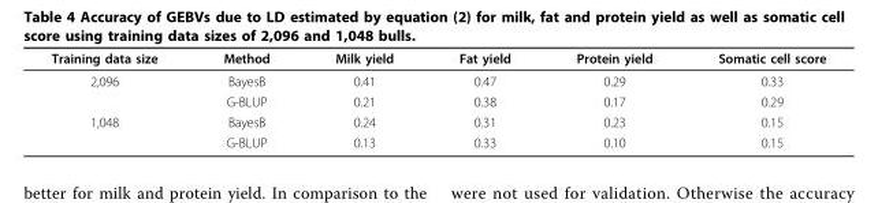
<table><thead><tr><td>Training data size</td><td>Method</td><td>Milk yield</td><td>Fat yield</td><td>Protein yield</td><td>Somatic cell score</td></tr></thead><tbody><tr><td rowspan="2">2,096</td><td>BayesB</td><td>0.41</td><td>0.47</td><td>0.29</td><td>0.33</td></tr><tr><td>G-BLUP</td><td>0.21</td><td>0.38</td><td>0.17</td><td>0.29</td></tr><tr><td rowspan="2">1,048</td><td>BayesB</td><td>0.24</td><td>0.31</td><td>0.23</td><td>0.15</td></tr><tr><td>G-BLUP</td><td>0.13</td><td>0.33</td><td>0.10</td><td>0.15</td></tr></tbody></table>